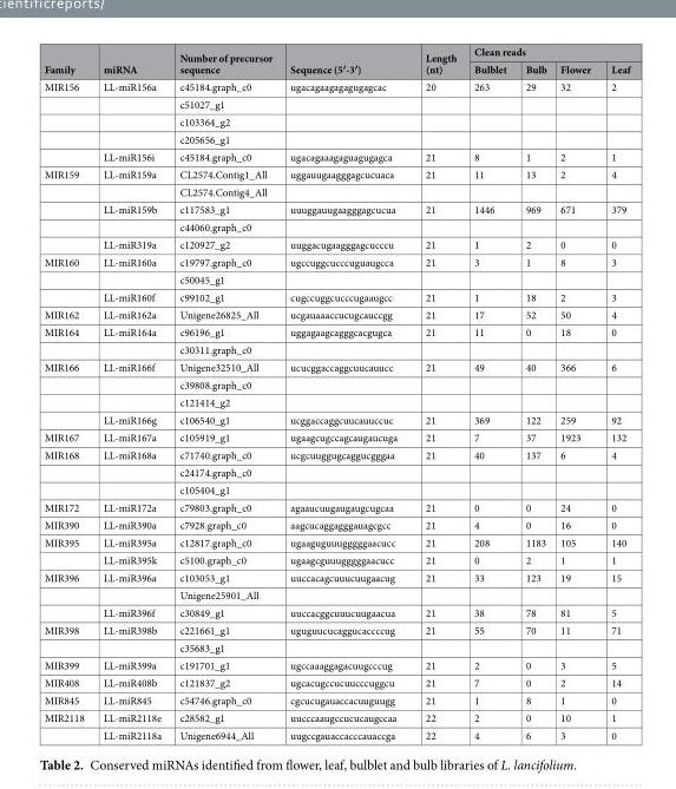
<table><thead><tr><td rowspan="2">Family</td><td rowspan="2">miRNA</td><td rowspan="2">Number of precursor sequence</td><td rowspan="2">Sequence (5′-3′)</td><td rowspan="2">Length (nt)</td><td colspan="4">Clean reads</td></tr><tr><td>Bulblet</td><td>Bulb</td><td>Flower</td><td>Leaf</td></tr></thead><tbody><tr><td rowspan="5">MIR156</td><td>LL-miR156a</td><td>c45184.graph_c0</td><td>ugacagaagagagugagcac</td><td>20</td><td>263</td><td>29</td><td>32</td><td>2</td></tr><tr><td></td><td>c51027_g1</td><td></td><td></td><td></td><td></td><td></td><td></td></tr><tr><td></td><td>c103364_g2</td><td></td><td></td><td></td><td></td><td></td><td></td></tr><tr><td></td><td>c205656_g1</td><td></td><td></td><td></td><td></td><td></td><td></td></tr><tr><td>LL-miR156i</td><td>c45184.graph_c0</td><td>ugacagaaagaguagugagca</td><td>21</td><td>8</td><td>1</td><td>2</td><td>1</td></tr><tr><td rowspan="5">MIR159</td><td>LL-miR159a</td><td>CL2574.Contig1_All</td><td>uggauugaagggagcucuaca</td><td>21</td><td>11</td><td>13</td><td>2</td><td>4</td></tr><tr><td></td><td>CL2574.Contig4_All</td><td></td><td></td><td></td><td></td><td></td><td></td></tr><tr><td>LL-miR159b</td><td>c117583_g1</td><td>uuuggauugaagggagcucua</td><td>21</td><td>1446</td><td>969</td><td>671</td><td>379</td></tr><tr><td></td><td>c44060.graph_c0</td><td></td><td></td><td></td><td></td><td></td><td></td></tr><tr><td>LL-miR319a</td><td>c120927_g2</td><td>uuggacugaagggagcucccu</td><td>21</td><td>1</td><td>2</td><td>0</td><td>0</td></tr><tr><td rowspan="3">MIR160</td><td>LL-miR160a</td><td>c19797.graph_c0</td><td>ugccuggcucccuguaugcca</td><td>21</td><td>3</td><td>1</td><td>8</td><td>3</td></tr><tr><td></td><td>c50045_g1</td><td></td><td></td><td></td><td></td><td></td><td></td></tr><tr><td>LL-miR160f</td><td>c99102_g1</td><td>cugccuggcucccugaaugcc</td><td>21</td><td>1</td><td>18</td><td>2</td><td>3</td></tr><tr><td>MIR162</td><td>LL-miR162a</td><td>Unigene26825_All</td><td>ucgauaaaccucugcauccgg</td><td>21</td><td>17</td><td>52</td><td>50</td><td>4</td></tr><tr><td rowspan="2">MIR164</td><td>LL-miR164a</td><td>c96196_g1</td><td>uggagaagcagggcacgugca</td><td>21</td><td>11</td><td>0</td><td>18</td><td>0</td></tr><tr><td></td><td>c30311.graph_c0</td><td></td><td></td><td></td><td></td><td></td><td></td></tr><tr><td rowspan="4">MIR166</td><td>LL-miR166f</td><td>Unigene32510_All</td><td>ucucggaccaggcuucauucc</td><td>21</td><td>49</td><td>40</td><td>366</td><td>6</td></tr><tr><td></td><td>c39808.graph_c0</td><td></td><td></td><td></td><td></td><td></td><td></td></tr><tr><td></td><td>c121414_g2</td><td></td><td></td><td></td><td></td><td></td><td></td></tr><tr><td>LL-miR166g</td><td>c106540_g1</td><td>ucggaccaggcuucauuccuc</td><td>21</td><td>369</td><td>122</td><td>259</td><td>92</td></tr><tr><td>MIR167</td><td>LL-miR167a</td><td>c105919_g1</td><td>ugaagcugccagcaugaucuga</td><td>21</td><td>7</td><td>37</td><td>1923</td><td>132</td></tr><tr><td rowspan="3">MIR168</td><td>LL-miR168a</td><td>c71740.graph_c0</td><td>ucgcuuggugcaggucgggaa</td><td>21</td><td>40</td><td>137</td><td>6</td><td>4</td></tr><tr><td></td><td>c24174.graph_c0</td><td></td><td></td><td></td><td></td><td></td><td></td></tr><tr><td></td><td>c105404_g1</td><td></td><td></td><td></td><td></td><td></td><td></td></tr><tr><td>MIR172</td><td>LL-miR172a</td><td>c79803.graph_c0</td><td>agaaucuugaugaugcugcaa</td><td>21</td><td>0</td><td>0</td><td>24</td><td>0</td></tr><tr><td>MIR390</td><td>LL-miR390a</td><td>c7928.graph_c0</td><td>aagcucaggagggauagcgcc</td><td>21</td><td>4</td><td>0</td><td>16</td><td>0</td></tr><tr><td rowspan="2">MIR395</td><td>LL-miR395a</td><td>c12817.graph_c0</td><td>ugaaguguuugggggaacucc</td><td>21</td><td>208</td><td>1183</td><td>105</td><td>140</td></tr><tr><td>LL-miR395k</td><td>c5100.graph_c0</td><td>ugaagcguuugggggaacucc</td><td>21</td><td>0</td><td>2</td><td>1</td><td>1</td></tr><tr><td rowspan="3">MIR396</td><td>LL-miR396a</td><td>c103053_g1</td><td>uuccacagcuuucuugaacug</td><td>21</td><td>33</td><td>123</td><td>19</td><td>15</td></tr><tr><td></td><td>Unigene25901_All</td><td></td><td></td><td></td><td></td><td></td><td></td></tr><tr><td>LL-miR396f</td><td>c30849_g1</td><td>uuccacggcuuucuugaacua</td><td>21</td><td>38</td><td>78</td><td>81</td><td>5</td></tr><tr><td rowspan="2">MIR398</td><td>LL-miR398b</td><td>c221661_g1</td><td>uguguucucaggucaccccug</td><td>21</td><td>55</td><td>70</td><td>11</td><td>71</td></tr><tr><td></td><td>c35683_g1</td><td></td><td></td><td></td><td></td><td></td><td></td></tr><tr><td>MIR399</td><td>LL-miR399a</td><td>c191701_g1</td><td>ugccaaaggagacuugcccug</td><td>21</td><td>2</td><td>0</td><td>3</td><td>5</td></tr><tr><td>MIR408</td><td>LL-miR408b</td><td>c121837_g2</td><td>ugcacugccucuucccuggcu</td><td>21</td><td>7</td><td>0</td><td>2</td><td>14</td></tr><tr><td>MIR845</td><td>LL-miR845</td><td>c54746.graph_c0</td><td>cgcucugauaccacuuguugg</td><td>21</td><td>1</td><td>8</td><td>1</td><td>0</td></tr><tr><td rowspan="2">MIR2118</td><td>LL-miR2118e</td><td>c28582_g1</td><td>uucccaaugccucucaugccaa</td><td>22</td><td>2</td><td>0</td><td>10</td><td>1</td></tr><tr><td>LL-miR2118a</td><td>Unigene6944_All</td><td>uugccgauaccacccauaccga</td><td>22</td><td>4</td><td>6</td><td>3</td><td>0</td></tr></tbody></table>